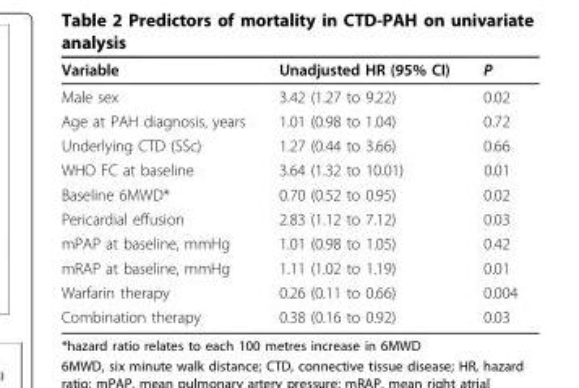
<table><thead><tr><td>Variable</td><td>Unadjusted HR (95% CI)</td><td>P</td></tr></thead><tbody><tr><td>Male sex</td><td>3.42 (1.27 to 9.22)</td><td>0.02</td></tr><tr><td>Age at PAH diagnosis, years</td><td>1.01 (0.98 to 1.04)</td><td>0.72</td></tr><tr><td>Underlying CTD (SSc)</td><td>1.27 (0.44 to 3.66)</td><td>0.66</td></tr><tr><td>WHO FC at baseline</td><td>3.64 (1.32 to 10.01)</td><td>0.01</td></tr><tr><td>Baseline 6MWD*</td><td>0.70 (0.52 to 0.95)</td><td>0.02</td></tr><tr><td>Pericardial effusion</td><td>2.83 (1.12 to 7.12)</td><td>0.03</td></tr><tr><td>mPAP at baseline, mmHg</td><td>1.01 (0.98 to 1.05)</td><td>0.42</td></tr><tr><td>mRAP at baseline, mmHg</td><td>1.11 (1.02 to 1.19)</td><td>0.01</td></tr><tr><td>Warfarin therapy</td><td>0.26 (0.11 to 0.66)</td><td>0.004</td></tr><tr><td>Combination therapy</td><td>0.38 (0.16 to 0.92)</td><td>0.03</td></tr></tbody></table>